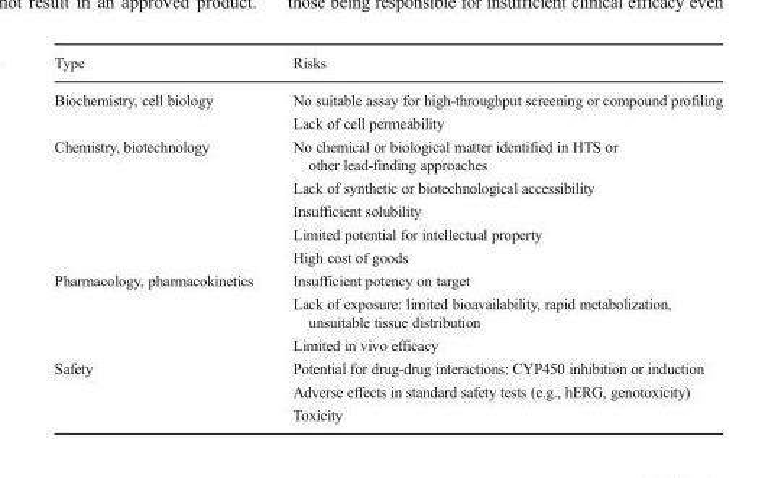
<table><thead><tr><td>Type</td><td>Risks</td></tr></thead><tbody><tr><td rowspan="2">Biochemistry, cell biology</td><td>No suitable assay for high-throughput screening or compound profiling</td></tr><tr><td>Lack of cell permeability</td></tr><tr><td rowspan="5">Chemistry, biotechnology</td><td>No chemical or biological matter identified in HTS or other lead-finding approaches</td></tr><tr><td>Lack of synthetic or biotechnological accessibility</td></tr><tr><td>Insufficient solubility</td></tr><tr><td>Limited potential for intellectual property</td></tr><tr><td>High cost of goods</td></tr><tr><td rowspan="3">Pharmacology, pharmacokinetics</td><td>Insufficient potency on target</td></tr><tr><td>Lack of exposure: limited bioavailability, rapid metabolization, unsuitable tissue distribution</td></tr><tr><td>Limited in vivo efficacy</td></tr><tr><td rowspan="3">Safety</td><td>Potential for drug-drug interactions: CYP450 inhibition or induction</td></tr><tr><td>Adverse effects in standard safety tests (e.g., hERG, genotoxicity)</td></tr><tr><td>Toxicity</td></tr></tbody></table>